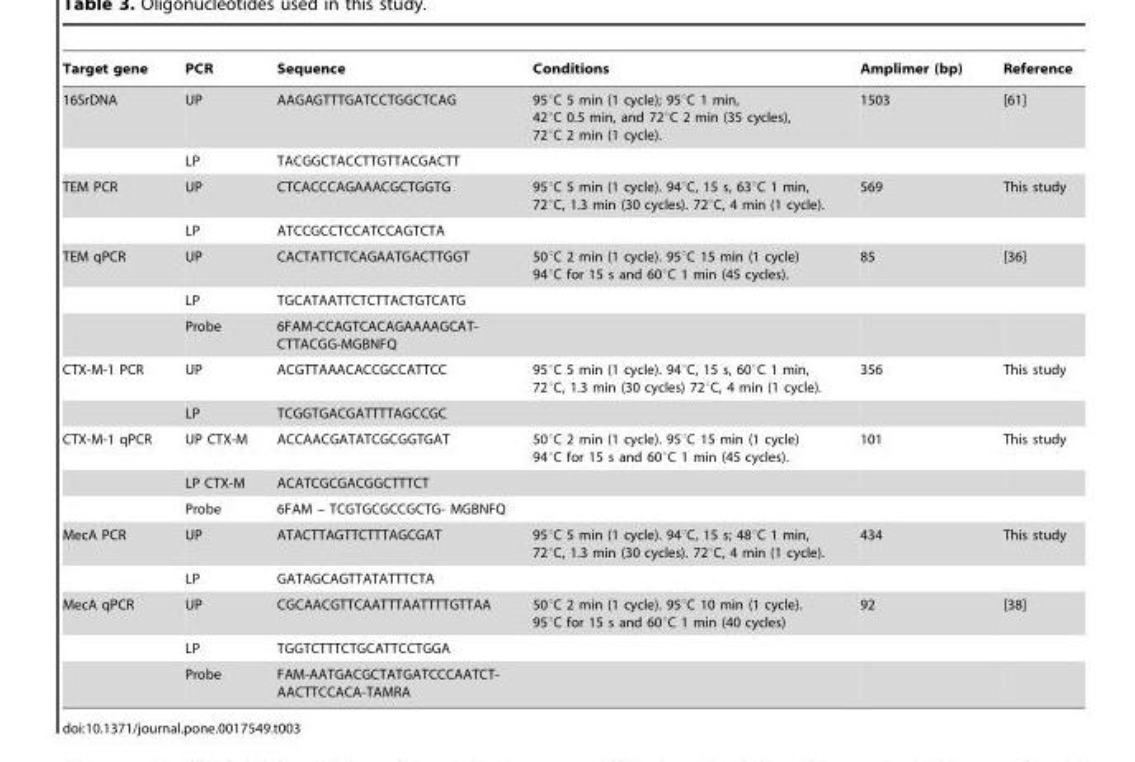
<table><thead><tr><td>Target gene</td><td>PCR</td><td>Sequence</td><td>Conditions</td><td>Amplimer (bp)</td><td>Reference</td></tr></thead><tbody><tr><td rowspan="2">16SrDNA</td><td>UP</td><td>AAGAGTTTGATCCTGGCTCAG</td><td>95°C 5 min (1 cycle); 95°C 1 min, 42°C 0.5 min, and 72°C 2 min (35 cycles), 72°C 2 min (1 cycle).</td><td>1503</td><td>[61]</td></tr><tr><td>LP</td><td>TACGGCTACCTTGTTACGACTT</td><td></td><td></td><td></td></tr><tr><td rowspan="2">TEM PCR</td><td>UP</td><td>CTCACCCAGAAACGCTGGTG</td><td>95°C 5 min (1 cycle). 94°C, 15 s, 63°C 1 min, 72°C, 1.3 min (30 cycles). 72°C, 4 min (1 cycle).</td><td>569</td><td>This study</td></tr><tr><td>LP</td><td>ATCCGCCTCCATCCAGTCTA</td><td></td><td></td><td></td></tr><tr><td rowspan="3">TEM qPCR</td><td>UP</td><td>CACTATTCTCAGAATGACTTGGT</td><td>50°C 2 min (1 cycle). 95°C 15 min (1 cycle) 94°C for 15 s and 60°C 1 min (45 cycles).</td><td>85</td><td>[36]</td></tr><tr><td>LP</td><td>TGCATAATTCTCTTACTGTCATG</td><td></td><td></td><td></td></tr><tr><td>Probe</td><td>6FAM-CCAGTCACAGAAAAGCAT- CTTACGG-MGBNFQ</td><td></td><td></td><td></td></tr><tr><td rowspan="2">CTX-M-1 PCR</td><td>UP</td><td>ACGTTAAACACCGCCATTCC</td><td>95°C 5 min (1 cycle). 94°C, 15 s, 60°C 1 min, 72°C, 1.3 min (30 cycles) 72°C, 4 min (1 cycle).</td><td>356</td><td>This study</td></tr><tr><td>LP</td><td>TCGGTGACGATTTTAGCCGC</td><td></td><td></td><td></td></tr><tr><td rowspan="3">CTX-M-1 qPCR</td><td>UP CTX-M</td><td>ACCAACGATATCGCGGTGAT</td><td>50°C 2 min (1 cycle). 95°C 15 min (1 cycle) 94°C for 15 s and 60°C 1 min (45 cycles).</td><td>101</td><td>This study</td></tr><tr><td>LP CTX-M</td><td>ACATCGCGACGGCTTTCT</td><td></td><td></td><td></td></tr><tr><td>Probe</td><td>6FAM – TCGTGCGCCGCTG- MGBNFQ</td><td></td><td></td><td></td></tr><tr><td rowspan="2">MecA PCR</td><td>UP</td><td>ATACTTAGTTCTTTAGCGAT</td><td>95°C 5 min (1 cycle). 94°C, 15 s; 48°C 1 min, 72°C, 1.3 min (30 cycles). 72°C, 4 min (1 cycle).</td><td>434</td><td>This study</td></tr><tr><td>LP</td><td>GATAGCAGTTATATTTCTA</td><td></td><td></td><td></td></tr><tr><td rowspan="3">MecA qPCR</td><td>UP</td><td>CGCAACGTTCAATTTAATTTTGTTAA</td><td>50°C 2 min (1 cycle). 95°C 10 min (1 cycle). 95°C for 15 s and 60°C 1 min (40 cycles)</td><td>92</td><td>[38]</td></tr><tr><td>LP</td><td>TGGTCTTTCTGCATTCCTGGA</td><td></td><td></td><td></td></tr><tr><td>Probe</td><td>FAM-AATGACGCTATGATCCCAATCT- AACTTCCACA-TAMRA</td><td></td><td></td><td></td></tr></tbody></table>